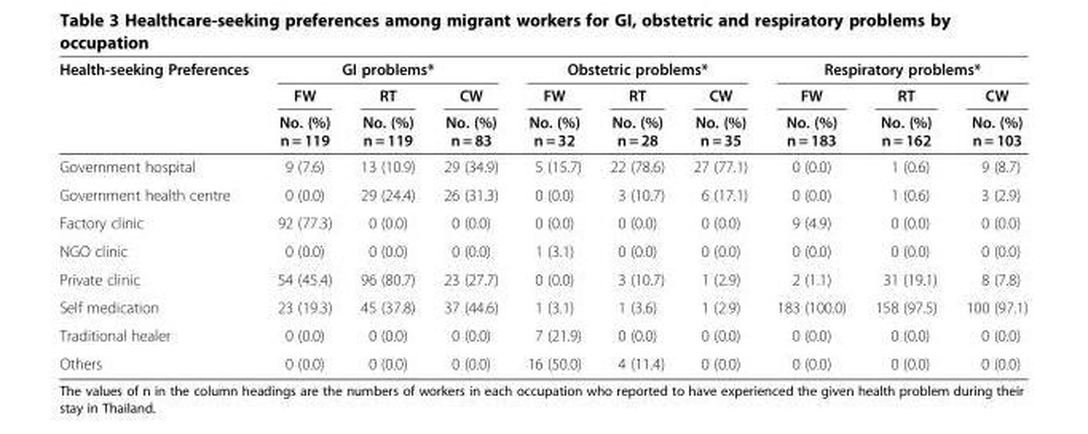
<table><thead><tr><td rowspan="3">Health-seeking Preferences</td><td colspan="3">GI problems*</td><td colspan="3">Obstetric problems*</td><td colspan="3">Respiratory problems*</td></tr><tr><td rowspan="2">FW No. (%) n = 119</td><td rowspan="2">RT No. (%) n = 119</td><td rowspan="2">CW No. (%) n = 83</td><td rowspan="2">FW No. (%) n = 32</td><td rowspan="2">RT No. (%) n = 28</td><td rowspan="2">CW No. (%) n = 35</td><td rowspan="2">FW No. (%) n = 183</td><td rowspan="2">RT No. (%) n = 162</td><td rowspan="2">CW No. (%) n = 103</td></tr><tr></tr></thead><tbody><tr><td>Government hospital</td><td>9 (7.6)</td><td>13 (10.9)</td><td>29 (34.9)</td><td>5 (15.7)</td><td>22 (78.6)</td><td>27 (77.1)</td><td>0 (0.0)</td><td>1 (0.6)</td><td>9 (8.7)</td></tr><tr><td>Government health centre</td><td>0 (0.0)</td><td>29 (24.4)</td><td>26 (31.3)</td><td>0 (0.0)</td><td>3 (10.7)</td><td>6 (17.1)</td><td>0 (0.0)</td><td>1 (0.6)</td><td>3 (2.9)</td></tr><tr><td>Factory clinic</td><td>92 (77.3)</td><td>0 (0.0)</td><td>0 (0.0)</td><td>0 (0.0)</td><td>0 (0.0)</td><td>0 (0.0)</td><td>9 (4.9)</td><td>0 (0.0)</td><td>0 (0.0)</td></tr><tr><td>NGO clinic</td><td>0 (0.0)</td><td>0 (0.0)</td><td>0 (0.0)</td><td>1 (3.1)</td><td>0 (0.0)</td><td>0 (0.0)</td><td>0 (0.0)</td><td>0 (0.0)</td><td>0 (0.0)</td></tr><tr><td>Private clinic</td><td>54 (45.4)</td><td>96 (80.7)</td><td>23 (27.7)</td><td>0 (0.0)</td><td>3 (10.7)</td><td>1 (2.9)</td><td>2 (1.1)</td><td>31 (19.1)</td><td>8 (7.8)</td></tr><tr><td>Self medication</td><td>23 (19.3)</td><td>45 (37.8)</td><td>37 (44.6)</td><td>1 (3.1)</td><td>1 (3.6)</td><td>1 (2.9)</td><td>183 (100.0)</td><td>158 (97.5)</td><td>100 (97.1)</td></tr><tr><td>Traditional healer</td><td>0 (0.0)</td><td>0 (0.0)</td><td>0 (0.0)</td><td>7 (21.9)</td><td>0 (0.0)</td><td>0 (0.0)</td><td>0 (0.0)</td><td>0 (0.0)</td><td>0 (0.0)</td></tr><tr><td>Others</td><td>0 (0.0)</td><td>0 (0.0)</td><td>0 (0.0)</td><td>16 (50.0)</td><td>4 (11.4)</td><td>0 (0.0)</td><td>0 (0.0)</td><td>0 (0.0)</td><td>0 (0.0)</td></tr></tbody></table>